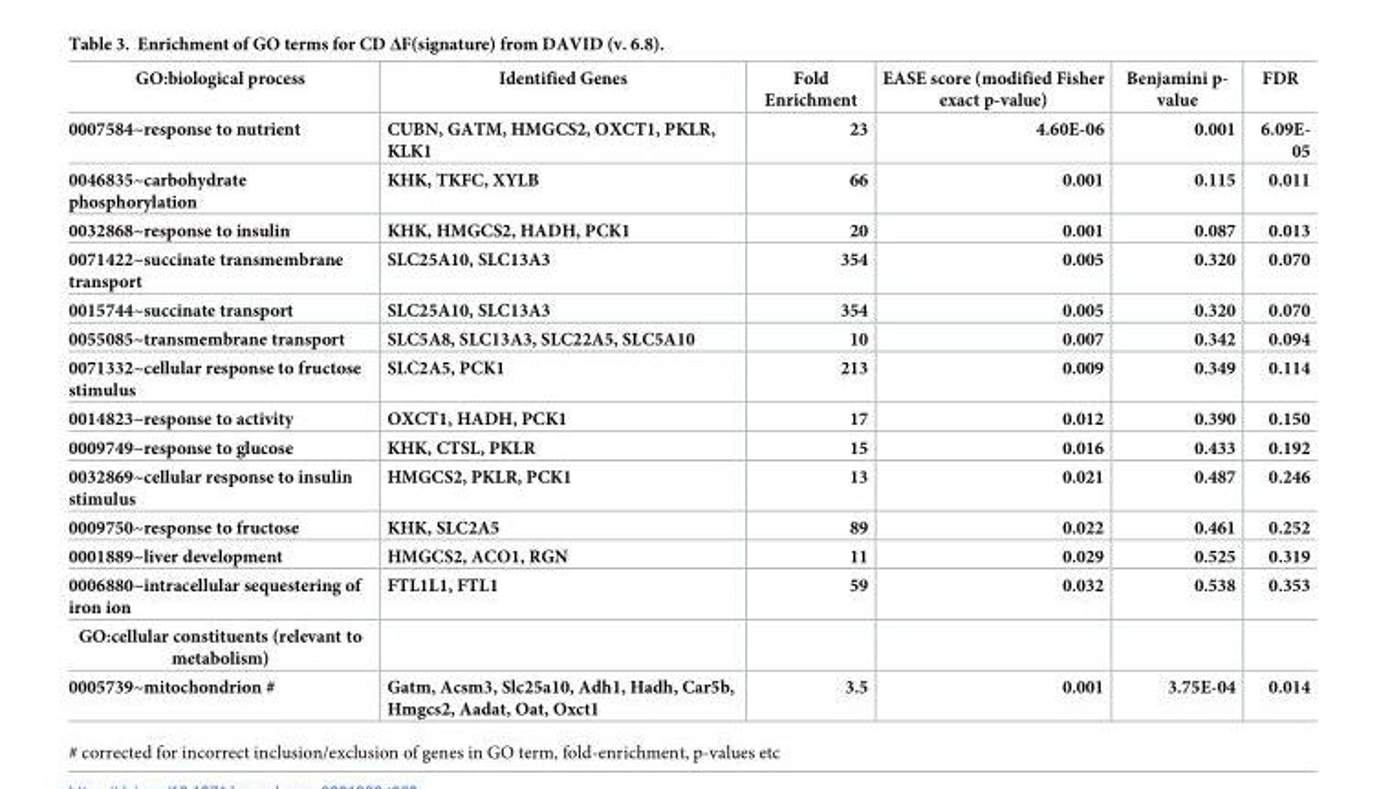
<table><thead><tr><td>GO:biological process</td><td>Identified Genes</td><td>Fold Enrichment</td><td>EASE score (modified Fisher exact p-value)</td><td>Benjamini p- value</td><td>FDR</td></tr></thead><tbody><tr><td>0007584~response to nutrient</td><td>CUBN, GATM, HMGCS2, OXCT1, PKLR, KLK1</td><td>23</td><td>4.60E-06</td><td>0.001</td><td>6.09E- 05</td></tr><tr><td>0046835~carbohydrate phosphorylation</td><td>KHK, TKFC, XYLB</td><td>66</td><td>0.001</td><td>0.115</td><td>0.011</td></tr><tr><td>0032868~response to insulin</td><td>KHK, HMGCS2, HADH, PCK1</td><td>20</td><td>0.001</td><td>0.087</td><td>0.013</td></tr><tr><td>0071422~succinate transmembrane transport</td><td>SLC25A10, SLC13A3</td><td>354</td><td>0.005</td><td>0.320</td><td>0.070</td></tr><tr><td>0015744~succinate transport</td><td>SLC25A10, SLC13A3</td><td>354</td><td>0.005</td><td>0.320</td><td>0.070</td></tr><tr><td>0055085~transmembrane transport</td><td>SLC5A8, SLC13A3, SLC22A5, SLC5A10</td><td>10</td><td>0.007</td><td>0.342</td><td>0.094</td></tr><tr><td>0071332~cellular response to fructose stimulus</td><td>SLC2A5, PCK1</td><td>213</td><td>0.009</td><td>0.349</td><td>0.114</td></tr><tr><td>0014823~response to activity</td><td>OXCT1, HADH, PCK1</td><td>17</td><td>0.012</td><td>0.390</td><td>0.150</td></tr><tr><td>0009749~response to glucose</td><td>KHK, CTSL, PKLR</td><td>15</td><td>0.016</td><td>0.433</td><td>0.192</td></tr><tr><td>0032869~cellular response to insulin stimulus</td><td>HMGCS2, PKLR, PCK1</td><td>13</td><td>0.021</td><td>0.487</td><td>0.246</td></tr><tr><td>0009750~response to fructose</td><td>KHK, SLC2A5</td><td>89</td><td>0.022</td><td>0.461</td><td>0.252</td></tr><tr><td>0001889~liver development</td><td>HMGCS2, ACO1, RGN</td><td>11</td><td>0.029</td><td>0.525</td><td>0.319</td></tr><tr><td>0006880~intracellular sequestering of iron ion</td><td>FTL1L1, FTL1</td><td>59</td><td>0.032</td><td>0.538</td><td>0.353</td></tr><tr><td colspan="6">GO:cellular constituents (relevant to metabolism)</td></tr><tr><td>0005739~mitochondrion #</td><td>Gatm, Acsm3, Slc25a10, Adh1, Hadh, Car5b, Hmgcs2, Aadat, Oat, Oxct1</td><td>3.5</td><td>0.001</td><td>3.75E-04</td><td>0.014</td></tr></tbody></table>